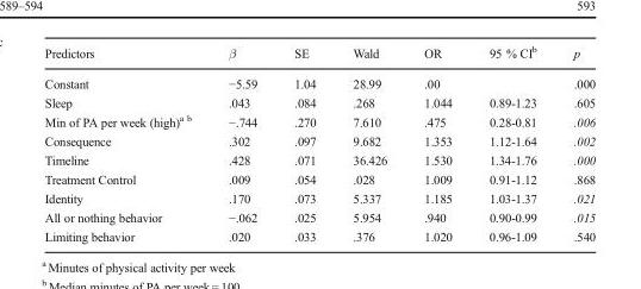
<table><thead><tr><td>Predictors</td><td>β</td><td>SE</td><td>Wald</td><td>OR</td><td>95 % CI<sup>b</sup></td><td>p</td></tr></thead><tbody><tr><td>Constant</td><td>−5.59</td><td>1.04</td><td>28.99</td><td>.00</td><td></td><td>.000</td></tr><tr><td>Sleep</td><td>.043</td><td>.084</td><td>.268</td><td>1.044</td><td>0.89-1.23</td><td>.605</td></tr><tr><td>Min of PA per week (high)<sup>a b</sup></td><td>−.744</td><td>.270</td><td>7.610</td><td>.475</td><td>0.28-0.81</td><td>.006</td></tr><tr><td>Consequence</td><td>.302</td><td>.097</td><td>9.682</td><td>1.353</td><td>1.12-1.64</td><td>.002</td></tr><tr><td>Timeline</td><td>.428</td><td>.071</td><td>36.426</td><td>1.530</td><td>1.34-1.76</td><td>.000</td></tr><tr><td>Treatment Control</td><td>.009</td><td>.054</td><td>.028</td><td>1.009</td><td>0.91-1.12</td><td>.868</td></tr><tr><td>Identity</td><td>.170</td><td>.073</td><td>5.337</td><td>1.185</td><td>1.03-1.37</td><td>.021</td></tr><tr><td>All or nothing behavior</td><td>−.062</td><td>.025</td><td>5.954</td><td>.940</td><td>0.90-0.99</td><td>.015</td></tr><tr><td>Limiting behavior</td><td>.020</td><td>.033</td><td>.376</td><td>1.020</td><td>0.96-1.09</td><td>.540</td></tr></tbody></table>